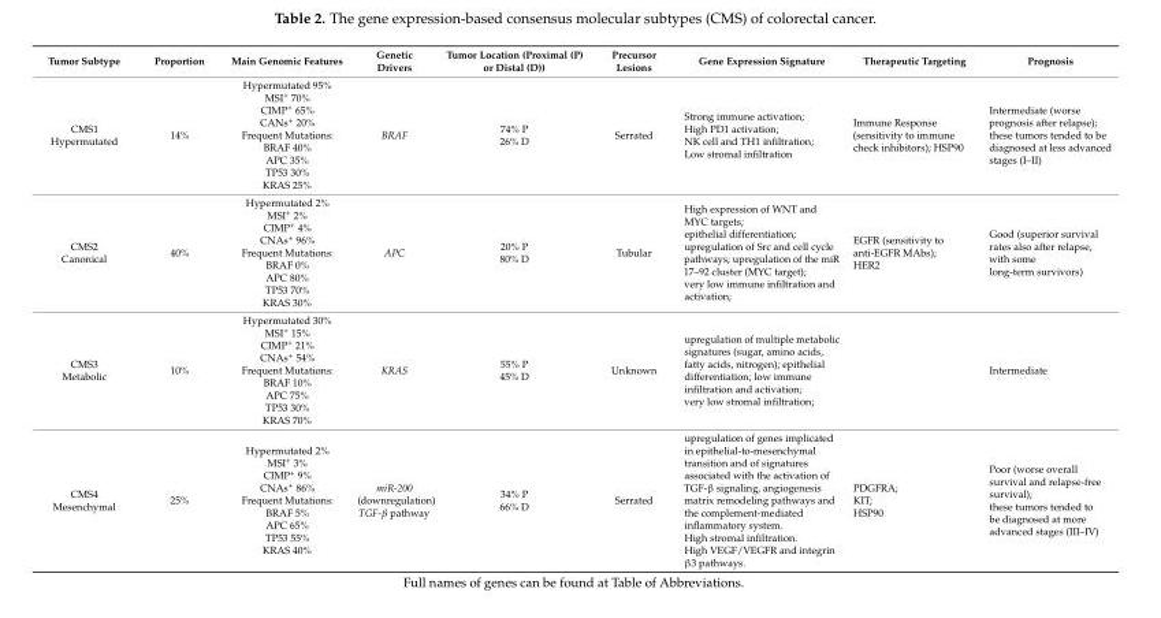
<table><thead><tr><td>Tumor Subtype</td><td>Proportion</td><td>Main Genomic Features</td><td>Genetic Drivers</td><td>Tumor Location (Proximal (P) or Distal (D))</td><td>Precursor Lesions</td><td>Gene Expression Signature</td><td>Therapeutic Targeting</td><td>Prognosis</td></tr></thead><tbody><tr><td>CMS1 Hypermutated</td><td>14%</td><td>Hypermutated 95% MSI<sup>+</sup> 70% CIMP<sup>+</sup> 65% CANs<sup>+</sup> 20% Frequent Mutations: BRAF 40% APC 35% TP53 30% KRAS 25%</td><td>BRAF</td><td>74% P 26% D</td><td>Serrated</td><td>Strong immune activation; High PD1 activation; NK cell and TH1 infiltration; Low stromal infiltration</td><td>Immune Response (sensitivity to immune check inhibitors); HSP90</td><td>Intermediate (worse prognosis after relapse); these tumors tended to be diagnosed at less advanced stages (I–II)</td></tr><tr><td>CMS2 Canonical</td><td>40%</td><td>Hypermutated 2% MSI<sup>+</sup> 2% CIMP<sup>+</sup> 4% CNAs<sup>+</sup> 96% Frequent Mutations: BRAF 0% APC 80% TP53 70% KRAS 30%</td><td>APC</td><td>20% P 80% D</td><td>Tubular</td><td>High expression of WNT and MYC targets; epithelial differentiation; upregulation of Src and cell cycle pathways; upregulation of the miR 17–92 cluster (MYC target); very low immune infiltration and activation;</td><td>EGFR (sensitivity to anti-EGFR MAbs); HER2</td><td>Good (superior survival rates also after relapse, with some long-term survivors)</td></tr><tr><td>CMS3 Metabolic</td><td>10%</td><td>Hypermutated 30% MSI<sup>+</sup> 15% CIMP<sup>+</sup> 21% CNAs<sup>+</sup> 54% Frequent Mutations: BRAF 10% APC 75% TP53 30% KRAS 70%</td><td>KRAS</td><td>55% P 45% D</td><td>Unknown</td><td>upregulation of multiple metabolic signatures (sugar, amino acids, fatty acids, nitrogen); epithelial differentiation; low immune infiltration and activation; very low stromal infiltration;</td><td></td><td>Intermediate</td></tr><tr><td>CMS4 Mesenchymal</td><td>25%</td><td>Hypermutated 2% MSI<sup>+</sup> 3% CIMP<sup>+</sup> 9% CNAs<sup>+</sup> 86% Frequent Mutations: BRAF 5% APC 65% TP53 55% KRAS 40%</td><td>miR-200 (downregulation) TGF-β pathway</td><td>34% P 66% D</td><td>Serrated</td><td>upregulation of genes implicated in epithelial-to-mesenchymal transition and of signatures associated with the activation of TGF-β signaling, angiogenesis matrix remodeling pathways and the complement-mediated inflammatory system. High stromal infiltration. High VEGF/VEGFR and integrin β3 pathways.</td><td>PDGFRA; KIT; HSP90</td><td>Poor (worse overall survival and relapse-free survival); these tumors tended to be diagnosed at more advanced stages (III–IV)</td></tr></tbody></table>